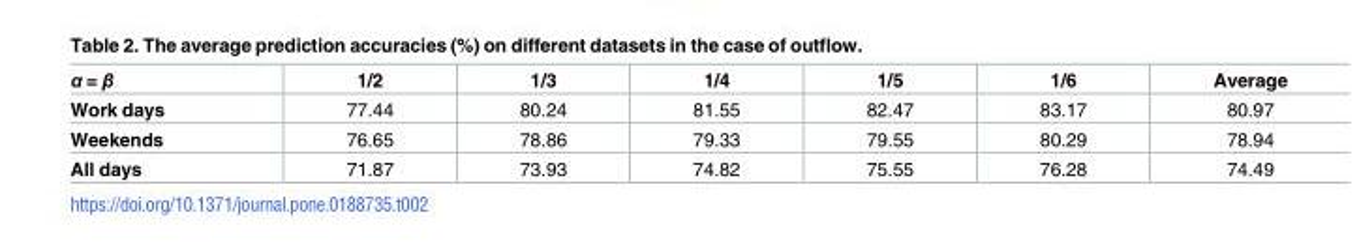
<table><thead><tr><td>α = β</td><td>1/2</td><td>1/3</td><td>1/4</td><td>1/5</td><td>1/6</td><td>Average</td></tr></thead><tbody><tr><td>Work days</td><td>77.44</td><td>80.24</td><td>81.55</td><td>82.47</td><td>83.17</td><td>80.97</td></tr><tr><td>Weekends</td><td>76.65</td><td>78.86</td><td>79.33</td><td>79.55</td><td>80.29</td><td>78.94</td></tr><tr><td>All days</td><td>71.87</td><td>73.93</td><td>74.82</td><td>75.55</td><td>76.28</td><td>74.49</td></tr></tbody></table>